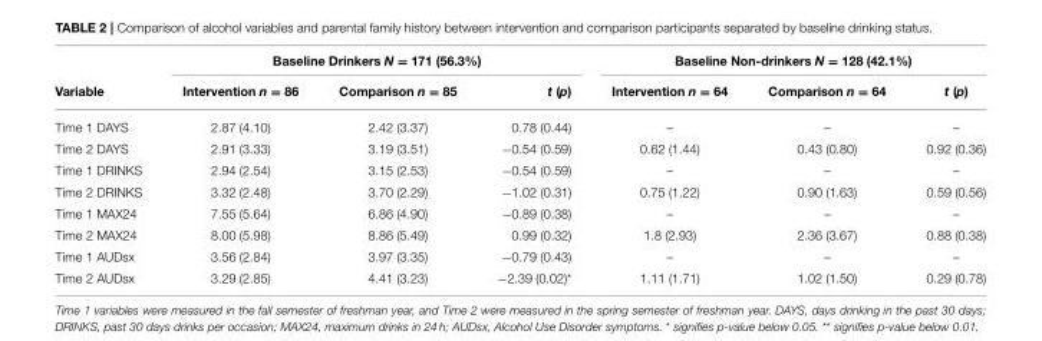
<table><thead><tr><td rowspan="2">Variable</td><td colspan="3">Baseline Drinkers N = 171 (56.3%)</td><td colspan="3">Baseline Non-drinkers N = 128 (42.1%)</td></tr><tr><td>Intervention n = 86</td><td>Comparison n = 85</td><td>t (p)</td><td>Intervention n = 64</td><td>Comparison n = 64</td><td>t (p)</td></tr></thead><tbody><tr><td>Time 1 DAYS</td><td>2.87 (4.10)</td><td>2.42 (3.37)</td><td>0.78 (0.44)</td><td>–</td><td>–</td><td>–</td></tr><tr><td>Time 2 DAYS</td><td>2.91 (3.33)</td><td>3.19 (3.51)</td><td>−0.54 (0.59)</td><td>0.62 (1.44)</td><td>0.43 (0.80)</td><td>0.92 (0.36)</td></tr><tr><td>Time 1 DRINKS</td><td>2.94 (2.54)</td><td>3.15 (2.53)</td><td>−0.54 (0.59)</td><td>–</td><td>–</td><td>–</td></tr><tr><td>Time 2 DRINKS</td><td>3.32 (2.48)</td><td>3.70 (2.29)</td><td>−1.02 (0.31)</td><td>0.75 (1.22)</td><td>0.90 (1.63)</td><td>0.59 (0.56)</td></tr><tr><td>Time 1 MAX24</td><td>7.55 (5.64)</td><td>6.86 (4.90)</td><td>−0.89 (0.38)</td><td>–</td><td>–</td><td>–</td></tr><tr><td>Time 2 MAX24</td><td>8.00 (5.98)</td><td>8.86 (5.49)</td><td>0.99 (0.32)</td><td>1.8 (2.93)</td><td>2.36 (3.67)</td><td>0.88 (0.38)</td></tr><tr><td>Time 1 AUDsx</td><td>3.56 (2.84)</td><td>3.97 (3.35)</td><td>−0.79 (0.43)</td><td>–</td><td>–</td><td>–</td></tr><tr><td>Time 2 AUDsx</td><td>3.29 (2.85)</td><td>4.41 (3.23)</td><td>−2.39 (0.02)*</td><td>1.11 (1.71)</td><td>1.02 (1.50)</td><td>0.29 (0.78)</td></tr></tbody></table>